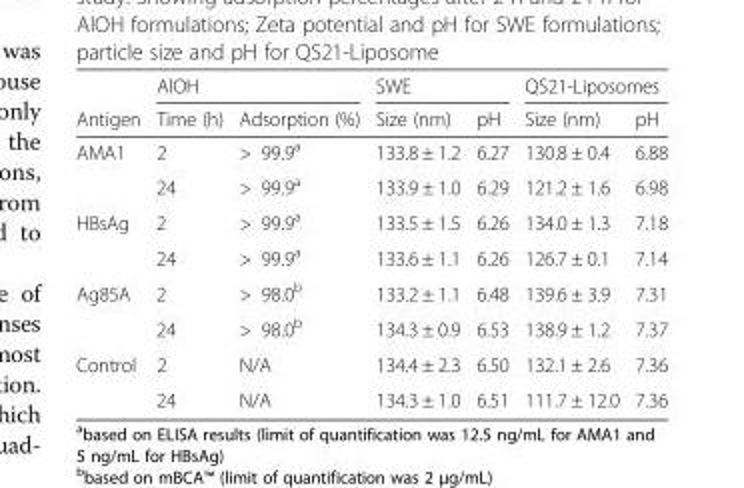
<table><thead><tr><td rowspan="2">Antigen</td><td colspan="2">AlOH</td><td colspan="2">SWE</td><td colspan="2">QS21-Liposomes</td></tr><tr><td>Time (h)</td><td>Adsorption (%)</td><td>Size (nm)</td><td>pH</td><td>Size (nm)</td><td>pH</td></tr></thead><tbody><tr><td rowspan="2">AMA1</td><td>2</td><td>&gt; 99.9<sup>a</sup></td><td>133.8 ± 1.2</td><td>6.27</td><td>130.8 ± 0.4</td><td>6.88</td></tr><tr><td>24</td><td>&gt; 99.9<sup>a</sup></td><td>133.9 ± 1.0</td><td>6.29</td><td>121.2 ± 1.6</td><td>6.98</td></tr><tr><td rowspan="2">HBsAg</td><td>2</td><td>&gt; 99.9<sup>a</sup></td><td>133.5 ± 1.5</td><td>6.26</td><td>134.0 ± 1.3</td><td>7.18</td></tr><tr><td>24</td><td>&gt; 99.9<sup>a</sup></td><td>133.6 ± 1.1</td><td>6.26</td><td>126.7 ± 0.1</td><td>7.14</td></tr><tr><td rowspan="2">Ag85A</td><td>2</td><td>&gt; 98.0<sup>b</sup></td><td>133.2 ± 1.1</td><td>6.48</td><td>139.6 ± 3.9</td><td>7.31</td></tr><tr><td>24</td><td>&gt; 98.0<sup>b</sup></td><td>134.3 ± 0.9</td><td>6.53</td><td>138.9 ± 1.2</td><td>7.37</td></tr><tr><td rowspan="2">Control</td><td>2</td><td>N/A</td><td>134.4 ± 2.3</td><td>6.50</td><td>132.1 ± 2.6</td><td>7.36</td></tr><tr><td>24</td><td>N/A</td><td>134.3 ± 1.0</td><td>6.51</td><td>111.7 ± 12.0</td><td>7.36</td></tr></tbody></table>